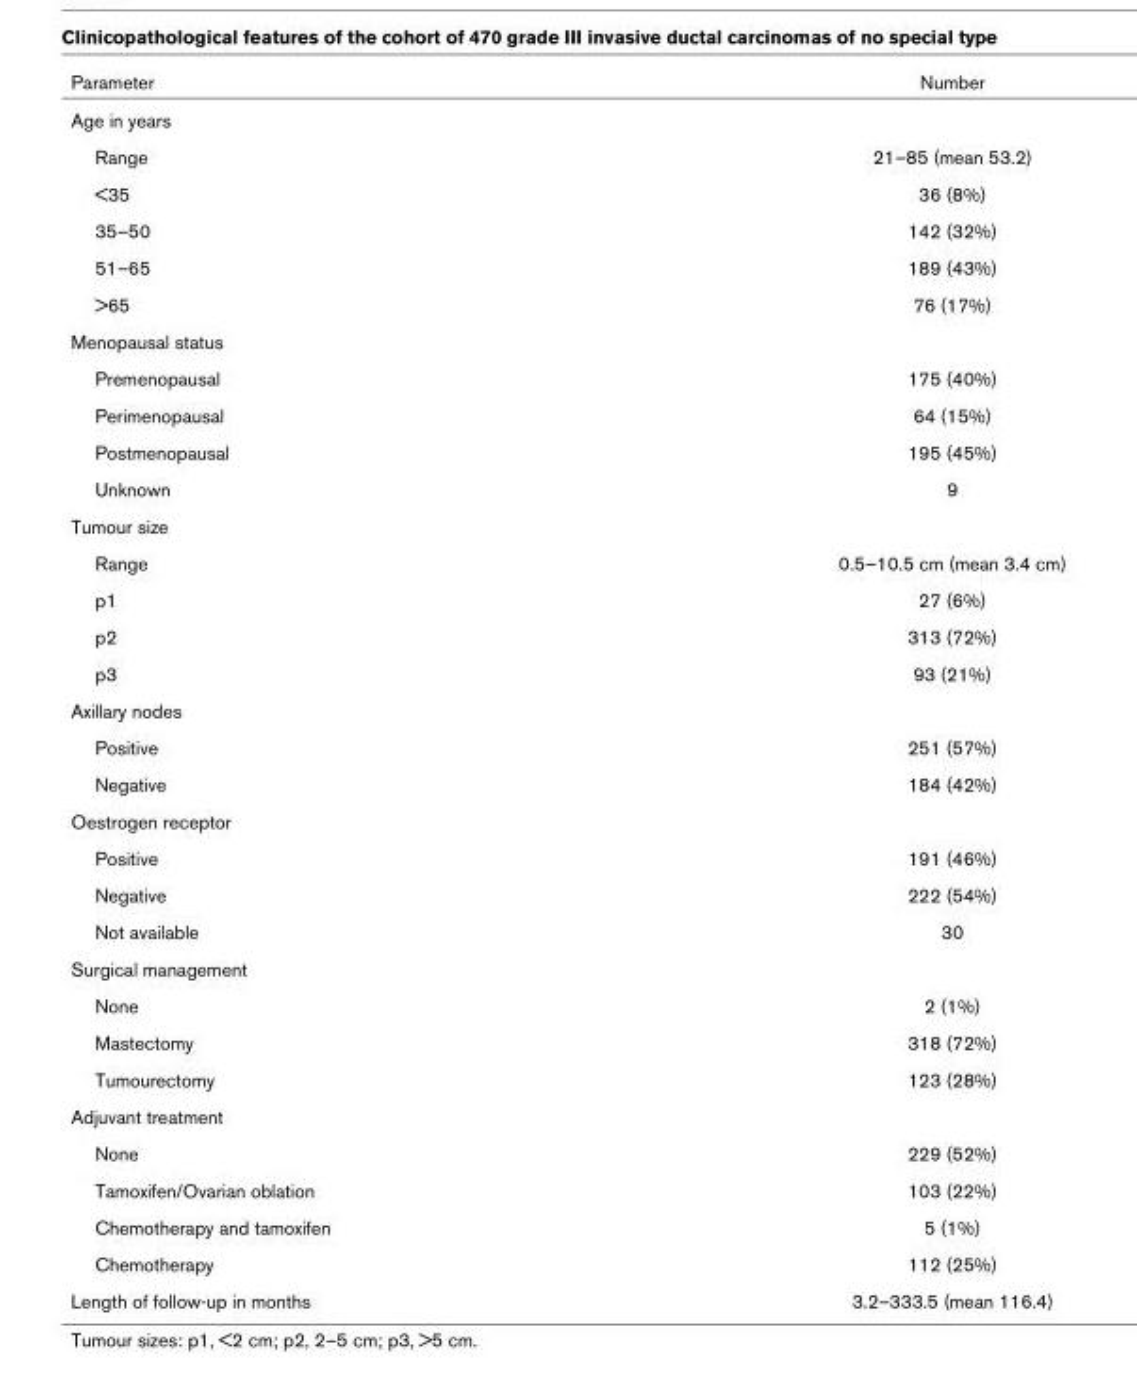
<table><thead><tr><td>Parameter</td><td>Number</td></tr></thead><tbody><tr><td colspan="2">Age in years</td></tr><tr><td>Range</td><td>21–85 (mean 53.2)</td></tr><tr><td>&lt;35</td><td>36 (8%)</td></tr><tr><td>35–50</td><td>142 (32%)</td></tr><tr><td>51–65</td><td>189 (43%)</td></tr><tr><td>&gt;65</td><td>76 (17%)</td></tr><tr><td colspan="2">Menopausal status</td></tr><tr><td>Premenopausal</td><td>175 (40%)</td></tr><tr><td>Perimenopausal</td><td>64 (15%)</td></tr><tr><td>Postmenopausal</td><td>195 (45%)</td></tr><tr><td>Unknown</td><td>9</td></tr><tr><td colspan="2">Tumour size</td></tr><tr><td>Range</td><td>0.5–10.5 cm (mean 3.4 cm)</td></tr><tr><td>p1</td><td>27 (6%)</td></tr><tr><td>p2</td><td>313 (72%)</td></tr><tr><td>p3</td><td>93 (21%)</td></tr><tr><td colspan="2">Axillary nodes</td></tr><tr><td>Positive</td><td>251 (57%)</td></tr><tr><td>Negative</td><td>184 (42%)</td></tr><tr><td colspan="2">Oestrogen receptor</td></tr><tr><td>Positive</td><td>191 (46%)</td></tr><tr><td>Negative</td><td>222 (54%)</td></tr><tr><td>Not available</td><td>30</td></tr><tr><td colspan="2">Surgical management</td></tr><tr><td>None</td><td>2 (1%)</td></tr><tr><td>Mastectomy</td><td>318 (72%)</td></tr><tr><td>Tumourectomy</td><td>123 (28%)</td></tr><tr><td colspan="2">Adjuvant treatment</td></tr><tr><td>None</td><td>229 (52%)</td></tr><tr><td>Tamoxifen/Ovarian oblation</td><td>103 (22%)</td></tr><tr><td>Chemotherapy and tamoxifen</td><td>5 (1%)</td></tr><tr><td>Chemotherapy</td><td>112 (25%)</td></tr><tr><td>Length of follow-up in months</td><td>3.2–333.5 (mean 116.4)</td></tr></tbody></table>